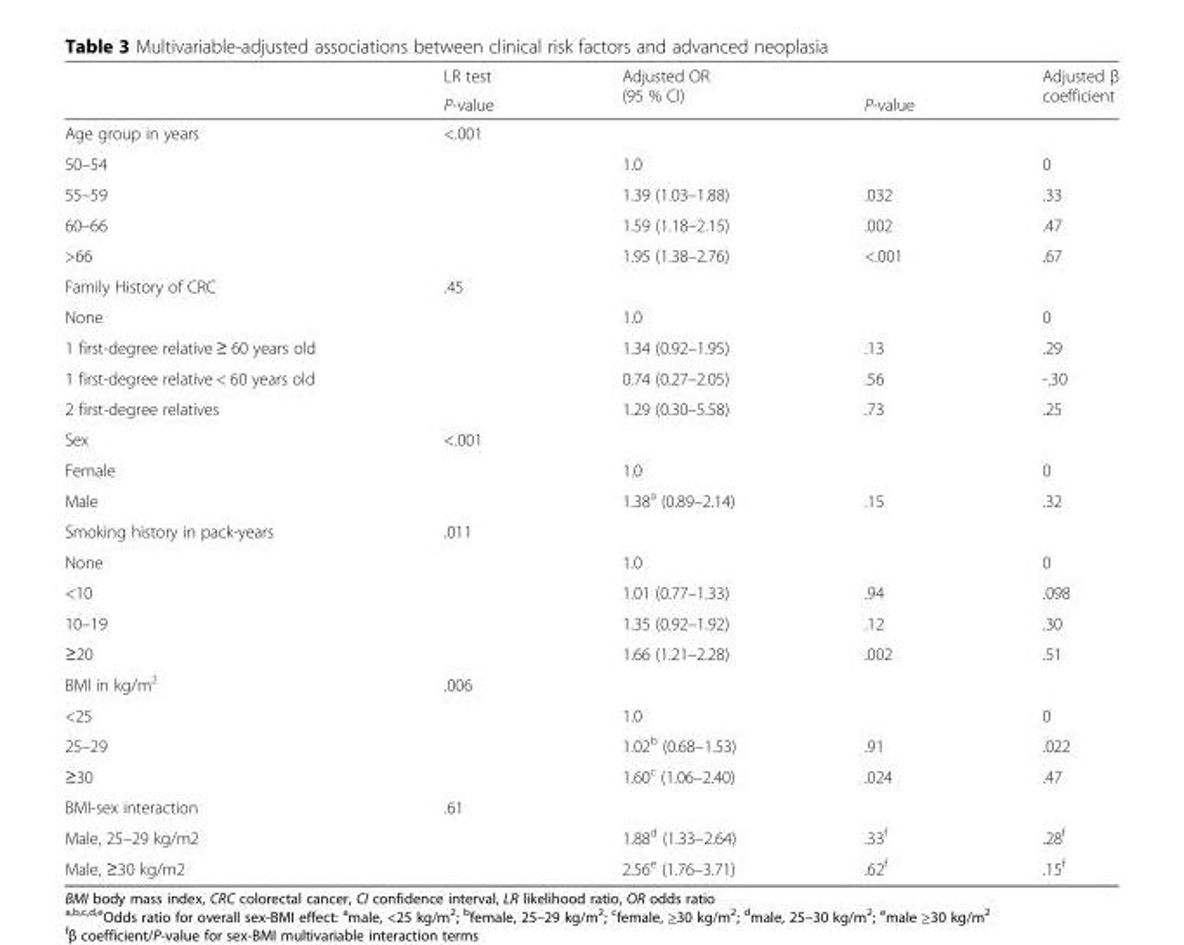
<table><thead><tr><td rowspan="2"></td><td rowspan="2">LR test P-value</td><td rowspan="2">Adjusted OR (95 % CI)</td><td rowspan="2">P-value</td><td rowspan="2">Adjusted β coefficient</td></tr><tr></tr></thead><tbody><tr><td>Age group in years</td><td>&lt;.001</td><td></td><td></td><td></td></tr><tr><td>50–54</td><td></td><td>1.0</td><td></td><td>0</td></tr><tr><td>55–59</td><td></td><td>1.39 (1.03–1.88)</td><td>.032</td><td>.33</td></tr><tr><td>60–66</td><td></td><td>1.59 (1.18–2.15)</td><td>.002</td><td>.47</td></tr><tr><td>&gt;66</td><td></td><td>1.95 (1.38–2.76)</td><td>&lt;.001</td><td>.67</td></tr><tr><td>Family History of CRC</td><td>.45</td><td></td><td></td><td></td></tr><tr><td>None</td><td></td><td>1.0</td><td></td><td>0</td></tr><tr><td>1 first-degree relative ≥ 60 years old</td><td></td><td>1.34 (0.92–1.95)</td><td>.13</td><td>.29</td></tr><tr><td>1 first-degree relative &lt; 60 years old</td><td></td><td>0.74 (0.27–2.05)</td><td>.56</td><td>-.30</td></tr><tr><td>2 first-degree relatives</td><td></td><td>1.29 (0.30–5.58)</td><td>.73</td><td>.25</td></tr><tr><td>Sex</td><td>&lt;.001</td><td></td><td></td><td></td></tr><tr><td>Female</td><td></td><td>1.0</td><td></td><td>0</td></tr><tr><td>Male</td><td></td><td>1.38<sup>a</sup> (0.89–2.14)</td><td>.15</td><td>.32</td></tr><tr><td>Smoking history in pack-years</td><td>.011</td><td></td><td></td><td></td></tr><tr><td>None</td><td></td><td>1.0</td><td></td><td>0</td></tr><tr><td>&lt;10</td><td></td><td>1.01 (0.77–1.33)</td><td>.94</td><td>.098</td></tr><tr><td>10–19</td><td></td><td>1.35 (0.92–1.92)</td><td>.12</td><td>.30</td></tr><tr><td>≥20</td><td></td><td>1.66 (1.21–2.28)</td><td>.002</td><td>.51</td></tr><tr><td>BMI in kg/m<sup>2</sup></td><td>.006</td><td></td><td></td><td></td></tr><tr><td>&lt;25</td><td></td><td>1.0</td><td></td><td>0</td></tr><tr><td>25–29</td><td></td><td>1.02<sup>b</sup> (0.68–1.53)</td><td>.91</td><td>.022</td></tr><tr><td>≥30</td><td></td><td>1.60<sup>c</sup> (1.06–2.40)</td><td>.024</td><td>.47</td></tr><tr><td>BMI-sex interaction</td><td>.61</td><td colspan="3"></td></tr><tr><td>Male, 25–29 kg/m2</td><td></td><td>1.88<sup>d</sup> (1.33–2.64)</td><td>.33<sup>f</sup></td><td>.28<sup>f</sup></td></tr><tr><td>Male, ≥30 kg/m2</td><td></td><td>2.56<sup>e</sup> (1.76–3.71)</td><td>.62<sup>f</sup></td><td>.15<sup>f</sup></td></tr></tbody></table>